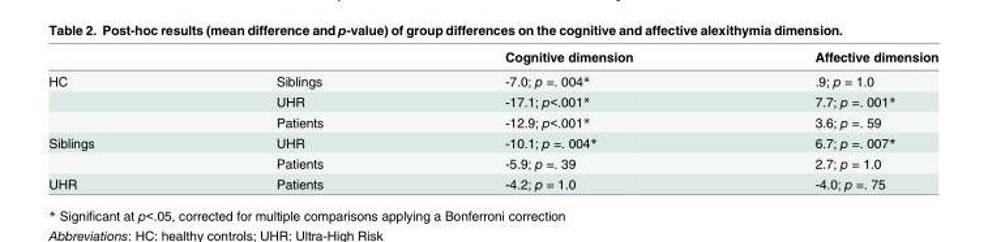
<table><thead><tr><td></td><td></td><td>Cognitive dimension</td><td>Affective dimension</td></tr></thead><tbody><tr><td rowspan="3">HC</td><td>Siblings</td><td>-7.0; p =. 004*</td><td>.9; p = 1.0</td></tr><tr><td>UHR</td><td>-17.1; p&lt;.001*</td><td>7.7; p =. 001*</td></tr><tr><td>Patients</td><td>-12.9; p&lt;.001*</td><td>3.6; p =. 59</td></tr><tr><td rowspan="2">Siblings</td><td>UHR</td><td>-10.1; p =. 004*</td><td>6.7; p =. 007*</td></tr><tr><td>Patients</td><td>-5.9; p =. 39</td><td>2.7; p = 1.0</td></tr><tr><td>UHR</td><td>Patients</td><td>-4.2; p = 1.0</td><td>-4.0; p =. 75</td></tr></tbody></table>